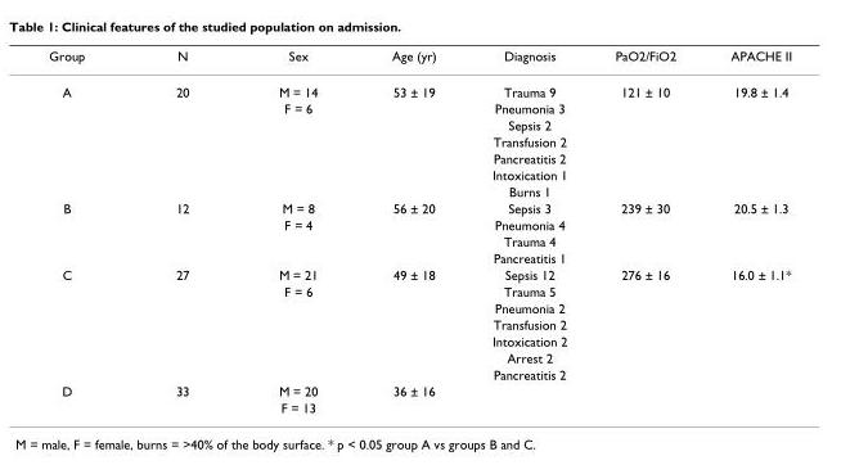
<table><thead><tr><td>Group</td><td>N</td><td>Sex</td><td>Age (yr)</td><td>Diagnosis</td><td>PaO2/FiO2</td><td>APACHE II</td></tr></thead><tbody><tr><td rowspan="7">A</td><td>20</td><td>M = 14</td><td>53 ± 19</td><td>Trauma 9</td><td>121 ± 10</td><td>19.8 ± 1.4</td></tr><tr><td></td><td>F = 6</td><td></td><td>Pneumonia 3</td><td></td><td></td></tr><tr><td></td><td></td><td></td><td>Sepsis 2</td><td></td><td></td></tr><tr><td></td><td></td><td></td><td>Transfusion 2</td><td></td><td></td></tr><tr><td></td><td></td><td></td><td>Pancreatitis 2</td><td></td><td></td></tr><tr><td></td><td></td><td></td><td>Intoxication 1</td><td></td><td></td></tr><tr><td></td><td></td><td></td><td>Burns 1</td><td></td><td></td></tr><tr><td rowspan="4">B</td><td>12</td><td>M = 8</td><td>56 ± 20</td><td>Sepsis 3</td><td>239 ± 30</td><td>20.5 ± 1.3</td></tr><tr><td></td><td>F = 4</td><td></td><td>Pneumonia 4</td><td></td><td></td></tr><tr><td></td><td></td><td></td><td>Trauma 4</td><td></td><td></td></tr><tr><td></td><td></td><td></td><td>Pancreatitis 1</td><td></td><td></td></tr><tr><td rowspan="7">C</td><td>27</td><td>M = 21</td><td>49 ± 18</td><td>Sepsis 12</td><td>276 ± 16</td><td>16.0 ± 1.1*</td></tr><tr><td></td><td>F = 6</td><td></td><td>Trauma 5</td><td></td><td></td></tr><tr><td></td><td></td><td></td><td>Pneumonia 2</td><td></td><td></td></tr><tr><td></td><td></td><td></td><td>Transfusion 2</td><td></td><td></td></tr><tr><td></td><td></td><td></td><td>Intoxication 2</td><td></td><td></td></tr><tr><td></td><td></td><td></td><td>Arrest 2</td><td></td><td></td></tr><tr><td></td><td></td><td></td><td>Pancreatitis 2</td><td></td><td></td></tr><tr><td rowspan="2">D</td><td>33</td><td>M = 20</td><td>36 ± 16</td><td></td><td></td><td></td></tr><tr><td></td><td>F = 13</td><td></td><td></td><td></td><td></td></tr></tbody></table>